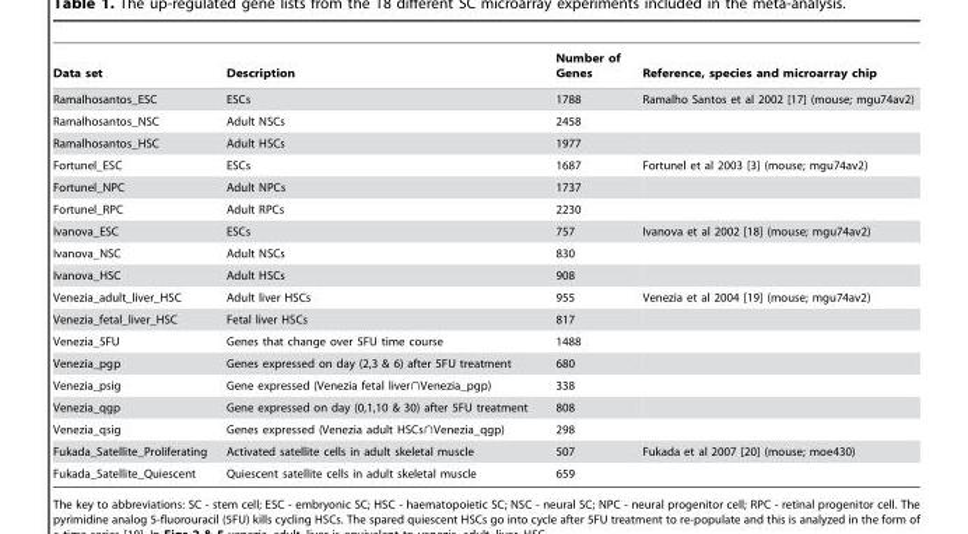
<table><thead><tr><td>Data set</td><td>Description</td><td>Number of Genes</td><td>Reference, species and microarray chip</td></tr></thead><tbody><tr><td>Ramalhosantos_ESC</td><td>ESCs</td><td>1788</td><td>Ramalho Santos et al 2002 [17] (mouse; mgu74av2)</td></tr><tr><td>Ramalhosantos_NSC</td><td>Adult NSCs</td><td>2458</td><td></td></tr><tr><td>Ramalhosantos_HSC</td><td>Adult HSCs</td><td>1977</td><td></td></tr><tr><td>Fortunel_ESC</td><td>ESCs</td><td>1687</td><td>Fortunel et al 2003 [3] (mouse; mgu74av2)</td></tr><tr><td>Fortunel_NPC</td><td>Adult NPCs</td><td>1737</td><td></td></tr><tr><td>Fortunel_RPC</td><td>Adult RPCs</td><td>2230</td><td></td></tr><tr><td>Ivanova_ESC</td><td>ESCs</td><td>757</td><td>Ivanova et al 2002 [18] (mouse; mgu74av2)</td></tr><tr><td>Ivanova_NSC</td><td>Adult NSCs</td><td>830</td><td></td></tr><tr><td>Ivanova_HSC</td><td>Adult HSCs</td><td>908</td><td></td></tr><tr><td>Venezia_adult_liver_HSC</td><td>Adult liver HSCs</td><td>955</td><td>Venezia et al 2004 [19] (mouse; mgu74av2)</td></tr><tr><td>Venezia_fetal_liver_HSC</td><td>Fetal liver HSCs</td><td>817</td><td></td></tr><tr><td>Venezia_5FU</td><td>Genes that change over 5FU time course</td><td>1488</td><td></td></tr><tr><td>Venezia_pgp</td><td>Genes expressed on day (2,3 &amp; 6) after 5FU treatment</td><td>680</td><td></td></tr><tr><td>Venezia_psig</td><td>Gene expressed (Venezia fetal liver&gt;Venezia_pgp)</td><td>338</td><td></td></tr><tr><td>Venezia_qgp</td><td>Gene expressed on day (0,1,10 &amp; 30) after 5FU treatment</td><td>808</td><td></td></tr><tr><td>Venezia_qsig</td><td>Genes expressed (Venezia adult HSCs&gt;Venezia_qgp)</td><td>298</td><td></td></tr><tr><td>Fukada_Satellite_Proliferating</td><td>Activated satellite cells in adult skeletal muscle</td><td>507</td><td>Fukada et al 2007 [20] (mouse; moe430)</td></tr><tr><td>Fukada_Satellite_Quiescent</td><td>Quiescent satellite cells in adult skeletal muscle</td><td>659</td><td></td></tr></tbody></table>